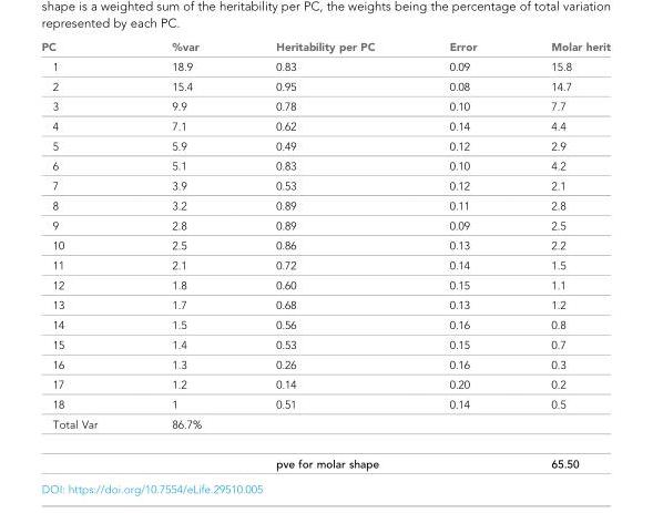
<table><thead><tr><td>PC</td><td>%var</td><td>Heritability per PC</td><td>Error</td><td>Molar herit</td></tr></thead><tbody><tr><td>1</td><td>18.9</td><td>0.83</td><td>0.09</td><td>15.8</td></tr><tr><td>2</td><td>15.4</td><td>0.95</td><td>0.08</td><td>14.7</td></tr><tr><td>3</td><td>9.9</td><td>0.78</td><td>0.10</td><td>7.7</td></tr><tr><td>4</td><td>7.1</td><td>0.62</td><td>0.14</td><td>4.4</td></tr><tr><td>5</td><td>5.9</td><td>0.49</td><td>0.12</td><td>2.9</td></tr><tr><td>6</td><td>5.1</td><td>0.83</td><td>0.10</td><td>4.2</td></tr><tr><td>7</td><td>3.9</td><td>0.53</td><td>0.12</td><td>2.1</td></tr><tr><td>8</td><td>3.2</td><td>0.89</td><td>0.11</td><td>2.8</td></tr><tr><td>9</td><td>2.8</td><td>0.89</td><td>0.09</td><td>2.5</td></tr><tr><td>10</td><td>2.5</td><td>0.86</td><td>0.13</td><td>2.2</td></tr><tr><td>11</td><td>2.1</td><td>0.72</td><td>0.14</td><td>1.5</td></tr><tr><td>12</td><td>1.8</td><td>0.60</td><td>0.15</td><td>1.1</td></tr><tr><td>13</td><td>1.7</td><td>0.68</td><td>0.13</td><td>1.2</td></tr><tr><td>14</td><td>1.5</td><td>0.56</td><td>0.16</td><td>0.8</td></tr><tr><td>15</td><td>1.4</td><td>0.53</td><td>0.15</td><td>0.7</td></tr><tr><td>16</td><td>1.3</td><td>0.26</td><td>0.16</td><td>0.3</td></tr><tr><td>17</td><td>1.2</td><td>0.14</td><td>0.20</td><td>0.2</td></tr><tr><td>18</td><td>1</td><td>0.51</td><td>0.14</td><td>0.5</td></tr><tr><td rowspan="2">Total Var</td><td>86.7%</td><td></td><td></td><td></td></tr><tr><td></td><td colspan="2">pve for molar shape</td><td>65.50</td></tr></tbody></table>